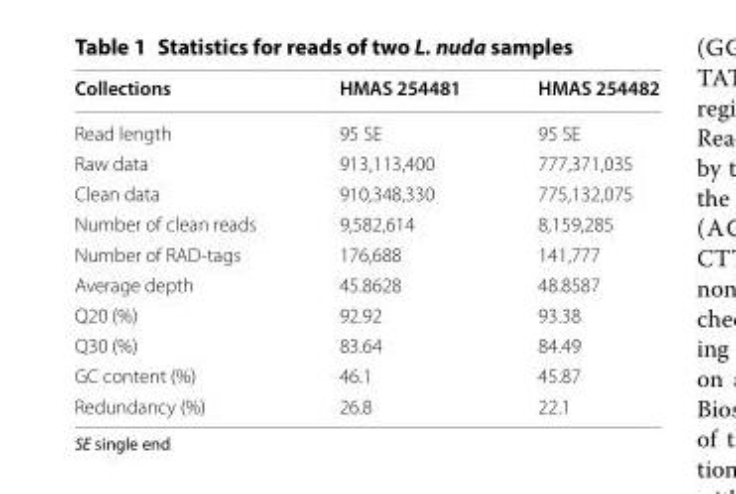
<table><thead><tr><td>Collections</td><td>HMAS 254481</td><td>HMAS 254482</td></tr></thead><tbody><tr><td>Read length</td><td>95 SE</td><td>95 SE</td></tr><tr><td>Raw data</td><td>913,113,400</td><td>777,371,035</td></tr><tr><td>Clean data</td><td>910,348,330</td><td>775,132,075</td></tr><tr><td>Number of clean reads</td><td>9,582,614</td><td>8,159,285</td></tr><tr><td>Number of RAD‑tags</td><td>176,688</td><td>141,777</td></tr><tr><td>Average depth</td><td>45.8628</td><td>48.8587</td></tr><tr><td>Q20 (%)</td><td>92.92</td><td>93.38</td></tr><tr><td>Q30 (%)</td><td>83.64</td><td>84.49</td></tr><tr><td>GC content (%)</td><td>46.1</td><td>45.87</td></tr><tr><td>Redundancy (%)</td><td>26.8</td><td>22.1</td></tr></tbody></table>